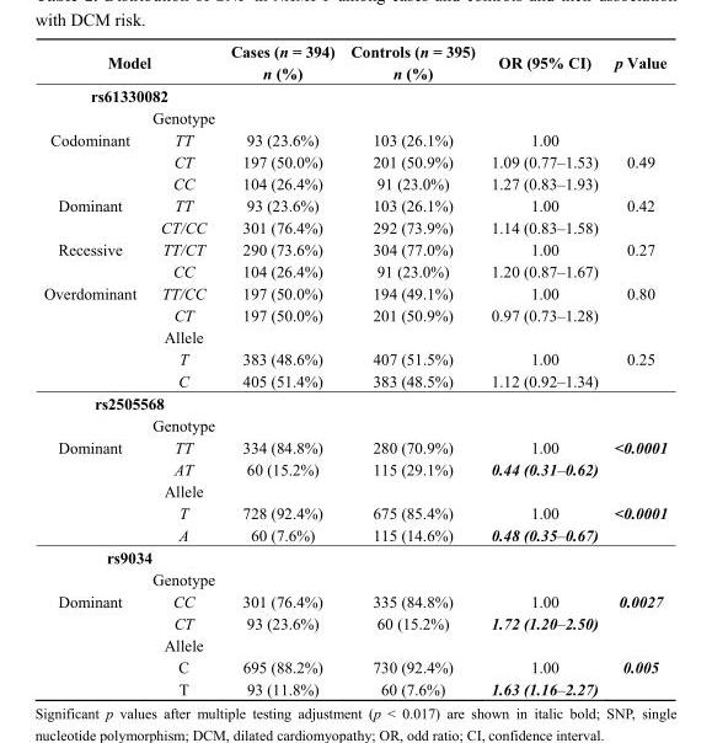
<table><thead><tr><td rowspan="3" colspan="2">Model rs61330082</td><td rowspan="4">Cases (n = 394) n (%)</td><td rowspan="4">Controls (n = 395) n (%)</td><td rowspan="4">OR (95% CI)</td><td rowspan="4">p Value</td></tr><tr></tr><tr></tr><tr><td></td><td>Genotype</td></tr></thead><tbody><tr><td rowspan="3">Codominant</td><td>TT</td><td>93 (23.6%)</td><td>103 (26.1%)</td><td>1.00</td><td></td></tr><tr><td>CT</td><td>197 (50.0%)</td><td>201 (50.9%)</td><td>1.09 (0.77–1.53)</td><td>0.49</td></tr><tr><td>CC</td><td>104 (26.4%)</td><td>91 (23.0%)</td><td>1.27 (0.83–1.93)</td><td></td></tr><tr><td rowspan="2">Dominant</td><td>TT</td><td>93 (23.6%)</td><td>103 (26.1%)</td><td>1.00</td><td>0.42</td></tr><tr><td>CT/CC</td><td>301 (76.4%)</td><td>292 (73.9%)</td><td>1.14 (0.83–1.58)</td><td></td></tr><tr><td rowspan="2">Recessive</td><td>TT/CT</td><td>290 (73.6%)</td><td>304 (77.0%)</td><td>1.00</td><td>0.27</td></tr><tr><td>CC</td><td>104 (26.4%)</td><td>91 (23.0%)</td><td>1.20 (0.87–1.67)</td><td></td></tr><tr><td rowspan="5">Overdominant</td><td>TT/CC</td><td>197 (50.0%)</td><td>194 (49.1%)</td><td>1.00</td><td>0.80</td></tr><tr><td>CT</td><td>197 (50.0%)</td><td>201 (50.9%)</td><td>0.97 (0.73–1.28)</td><td></td></tr><tr><td>Allele</td><td></td><td></td><td></td><td></td></tr><tr><td>T</td><td>383 (48.6%)</td><td>407 (51.5%)</td><td>1.00</td><td>0.25</td></tr><tr><td>C</td><td>405 (51.4%)</td><td>383 (48.5%)</td><td>1.12 (0.92–1.34)</td><td></td></tr><tr><td colspan="2">rs2505568</td><td rowspan="2"></td><td rowspan="2"></td><td rowspan="2"></td><td rowspan="2"></td></tr><tr><td></td><td>Genotype</td></tr><tr><td rowspan="5">Dominant</td><td>TT</td><td>334 (84.8%)</td><td>280 (70.9%)</td><td>1.00</td><td>&lt;0.0001</td></tr><tr><td>AT</td><td>60 (15.2%)</td><td>115 (29.1%)</td><td>0.44 (0.31–0.62)</td><td></td></tr><tr><td>Allele</td><td></td><td></td><td></td><td></td></tr><tr><td>T</td><td>728 (92.4%)</td><td>675 (85.4%)</td><td>1.00</td><td>&lt;0.0001</td></tr><tr><td>A</td><td>60 (7.6%)</td><td>115 (14.6%)</td><td>0.48 (0.35–0.67)</td><td></td></tr><tr><td colspan="2">rs9034</td><td rowspan="2"></td><td rowspan="2"></td><td rowspan="2"></td><td rowspan="2"></td></tr><tr><td></td><td>Genotype</td></tr><tr><td rowspan="5">Dominant</td><td>CC</td><td>301 (76.4%)</td><td>335 (84.8%)</td><td>1.00</td><td>0.0027</td></tr><tr><td>CT</td><td>93 (23.6%)</td><td>60 (15.2%)</td><td>1.72 (1.20–2.50)</td><td></td></tr><tr><td>Allele</td><td></td><td></td><td></td><td></td></tr><tr><td>C</td><td>695 (88.2%)</td><td>730 (92.4%)</td><td>1.00</td><td>0.005</td></tr><tr><td>T</td><td>93 (11.8%)</td><td>60 (7.6%)</td><td>1.63 (1.16–2.27)</td><td></td></tr></tbody></table>